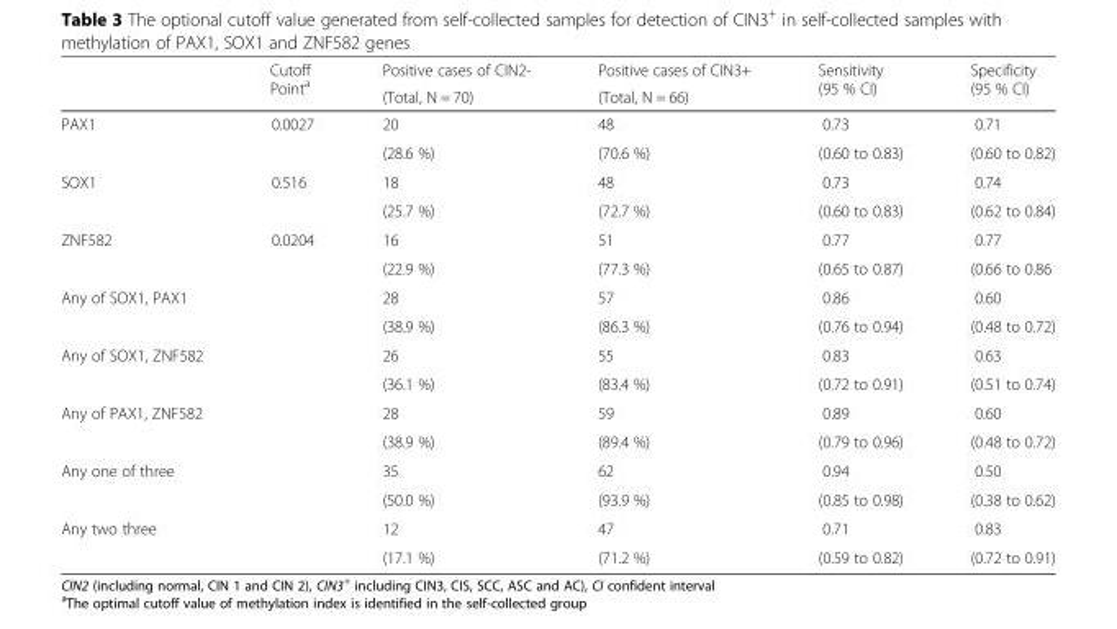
<table><thead><tr><td rowspan="2"></td><td rowspan="2">Cutoff Point<sup>a</sup></td><td rowspan="2">Positive cases of CIN2- (Total, N = 70)</td><td rowspan="2">Positive cases of CIN3+ (Total, N = 66)</td><td rowspan="2">Sensitivity (95 % CI)</td><td rowspan="2">Specificity (95 % CI)</td></tr><tr></tr></thead><tbody><tr><td rowspan="2">PAX1</td><td rowspan="2">0.0027</td><td>20</td><td>48</td><td>0.73</td><td>0.71</td></tr><tr><td>(28.6 %)</td><td>(70.6 %)</td><td>(0.60 to 0.83)</td><td>(0.60 to 0.82)</td></tr><tr><td rowspan="2">SOX1</td><td rowspan="2">0.516</td><td>18</td><td>48</td><td>0.73</td><td>0.74</td></tr><tr><td>(25.7 %)</td><td>(72.7 %)</td><td>(0.60 to 0.83)</td><td>(0.62 to 0.84)</td></tr><tr><td rowspan="2">ZNF582</td><td rowspan="2">0.0204</td><td>16</td><td>51</td><td>0.77</td><td>0.77</td></tr><tr><td>(22.9 %)</td><td>(77.3 %)</td><td>(0.65 to 0.87)</td><td>(0.66 to 0.86</td></tr><tr><td rowspan="2">Any of SOX1, PAX1</td><td rowspan="2"></td><td>28</td><td>57</td><td>0.86</td><td>0.60</td></tr><tr><td>(38.9 %)</td><td>(86.3 %)</td><td>(0.76 to 0.94)</td><td>(0.48 to 0.72)</td></tr><tr><td rowspan="2">Any of SOX1, ZNF582</td><td rowspan="2"></td><td>26</td><td>55</td><td>0.83</td><td>0.63</td></tr><tr><td>(36.1 %)</td><td>(83.4 %)</td><td>(0.72 to 0.91)</td><td>(0.51 to 0.74)</td></tr><tr><td rowspan="2">Any of PAX1, ZNF582</td><td rowspan="2"></td><td>28</td><td>59</td><td>0.89</td><td>0.60</td></tr><tr><td>(38.9 %)</td><td>(89.4 %)</td><td>(0.79 to 0.96)</td><td>(0.48 to 0.72)</td></tr><tr><td rowspan="2">Any one of three</td><td rowspan="2"></td><td>35</td><td>62</td><td>0.94</td><td>0.50</td></tr><tr><td>(50.0 %)</td><td>(93.9 %)</td><td>(0.85 to 0.98)</td><td>(0.38 to 0.62)</td></tr><tr><td rowspan="2">Any two three</td><td rowspan="2"></td><td>12</td><td>47</td><td>0.71</td><td>0.83</td></tr><tr><td>(17.1 %)</td><td>(71.2 %)</td><td>(0.59 to 0.82)</td><td>(0.72 to 0.91)</td></tr></tbody></table>